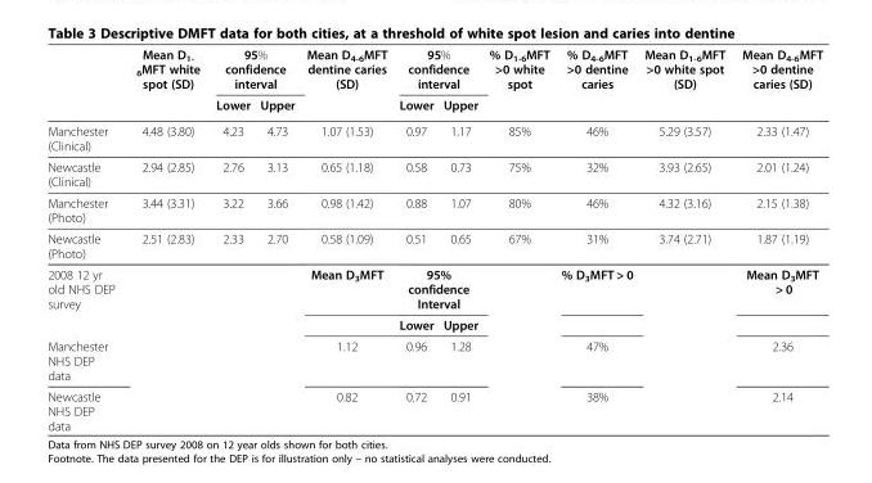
<table><thead><tr><td rowspan="2"></td><td rowspan="2">Mean D<sub>1- 6</sub>MFT white spot (SD)</td><td colspan="2">95% confidence interval</td><td rowspan="2">Mean D<sub>4-6</sub>MFT dentine caries (SD)</td><td colspan="2">95% confidence interval</td><td rowspan="2">% D<sub>1-6</sub>MFT &gt;0 white spot</td><td rowspan="2">% D<sub>4-6</sub>MFT &gt;0 dentine caries</td><td rowspan="2">Mean D<sub>1-6</sub>MFT &gt;0 white spot (SD)</td><td rowspan="2">Mean D<sub>4-6</sub>MFT &gt;0 dentine caries (SD)</td></tr><tr><td>Lower</td><td>Upper</td><td>Lower</td><td>Upper</td></tr></thead><tbody><tr><td>Manchester (Clinical)</td><td>4.48 (3.80)</td><td>4.23</td><td>4.73</td><td>1.07 (1.53)</td><td>0.97</td><td>1.17</td><td>85%</td><td>46%</td><td>5.29 (3.57)</td><td>2.33 (1.47)</td></tr><tr><td>Newcastle (Clinical)</td><td>2.94 (2.85)</td><td>2.76</td><td>3.13</td><td>0.65 (1.18)</td><td>0.58</td><td>0.73</td><td>75%</td><td>32%</td><td>3.93 (2.65)</td><td>2.01 (1.24)</td></tr><tr><td>Manchester (Photo)</td><td>3.44 (3.31)</td><td>3.22</td><td>3.66</td><td>0.98 (1.42)</td><td>0.88</td><td>1.07</td><td>80%</td><td>46%</td><td>4.32 (3.16)</td><td>2.15 (1.38)</td></tr><tr><td>Newcastle (Photo)</td><td>2.51 (2.83)</td><td>2.33</td><td>2.70</td><td>0.58 (1.09)</td><td>0.51</td><td>0.65</td><td>67%</td><td>31%</td><td>3.74 (2.71)</td><td>1.87 (1.19)</td></tr><tr><td rowspan="2">2008 12 yr old NHS DEP survey</td><td></td><td></td><td></td><td>Mean D<sub>3</sub>MFT</td><td colspan="2">95% confidence Interval</td><td></td><td>% D<sub>3</sub>MFT &gt; 0</td><td></td><td>Mean D<sub>3</sub>MFT &gt; 0</td></tr><tr><td></td><td></td><td></td><td></td><td>Lower</td><td>Upper</td><td></td><td></td><td></td><td></td></tr><tr><td>Manchester NHS DEP data</td><td></td><td></td><td></td><td>1.12</td><td>0.96</td><td>1.28</td><td></td><td>47%</td><td></td><td>2.36</td></tr><tr><td>Newcastle NHS DEP data</td><td></td><td></td><td></td><td>0.82</td><td>0.72</td><td>0.91</td><td></td><td>38%</td><td></td><td>2.14</td></tr></tbody></table>